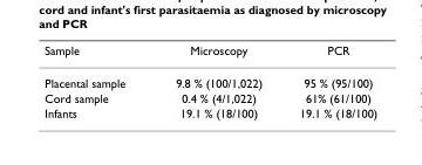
<table><thead><tr><td>Sample</td><td>Microscopy</td><td>PCR</td></tr></thead><tbody><tr><td>Placental sample</td><td>9.8 % (100/1,022)</td><td>95 % (95/100)</td></tr><tr><td>Cord sample</td><td>0.4 % (4/1,022)</td><td>61% (61/100)</td></tr><tr><td>Infants</td><td>19.1 % (18/100)</td><td>19.1 % (18/100)</td></tr></tbody></table>